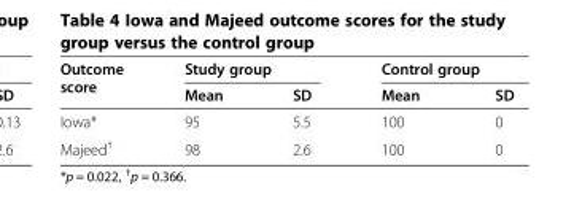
<table><thead><tr><td rowspan="2">Outcome score</td><td colspan="2">Study group</td><td colspan="2">Control group</td></tr><tr><td>Mean</td><td>SD</td><td>Mean</td><td>SD</td></tr></thead><tbody><tr><td>Iowa*</td><td>95</td><td>5.5</td><td>100</td><td>0</td></tr><tr><td>Majeed<sup>†</sup></td><td>98</td><td>2.6</td><td>100</td><td>0</td></tr></tbody></table>